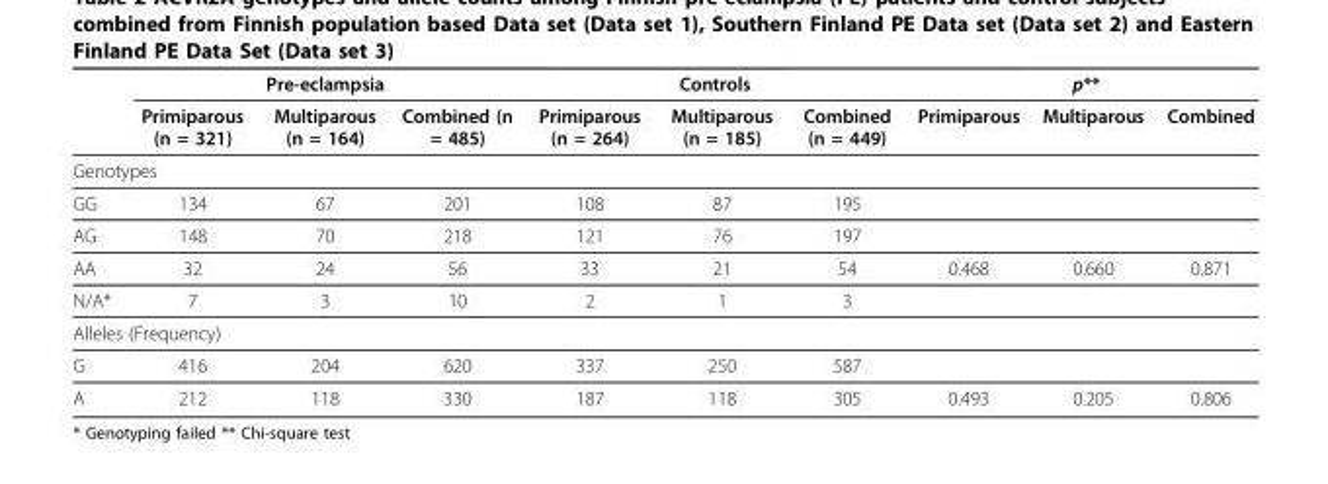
<table><thead><tr><td rowspan="2"></td><td colspan="3">Pre-eclampsia</td><td colspan="3">Controls</td><td colspan="3">p**</td></tr><tr><td>Primiparous (n = 321)</td><td>Multiparous (n = 164)</td><td>Combined (n = 485)</td><td>Primiparous (n = 264)</td><td>Multiparous (n = 185)</td><td>Combined (n = 449)</td><td>Primiparous</td><td>Multiparous</td><td>Combined</td></tr></thead><tbody><tr><td colspan="10">Genotypes</td></tr><tr><td>GG</td><td>134</td><td>67</td><td>201</td><td>108</td><td>87</td><td>195</td><td></td><td></td><td></td></tr><tr><td>AG</td><td>148</td><td>70</td><td>218</td><td>121</td><td>76</td><td>197</td><td></td><td></td><td></td></tr><tr><td>AA</td><td>32</td><td>24</td><td>56</td><td>33</td><td>21</td><td>54</td><td>0.468</td><td>0.660</td><td>0.871</td></tr><tr><td>N/A*</td><td>7</td><td>3</td><td>10</td><td>2</td><td>1</td><td>3</td><td></td><td></td><td></td></tr><tr><td colspan="10">Alleles (Frequency)</td></tr><tr><td>G</td><td>416</td><td>204</td><td>620</td><td>337</td><td>250</td><td>587</td><td></td><td></td><td></td></tr><tr><td>A</td><td>212</td><td>118</td><td>330</td><td>187</td><td>118</td><td>305</td><td>0.493</td><td>0.205</td><td>0.806</td></tr></tbody></table>